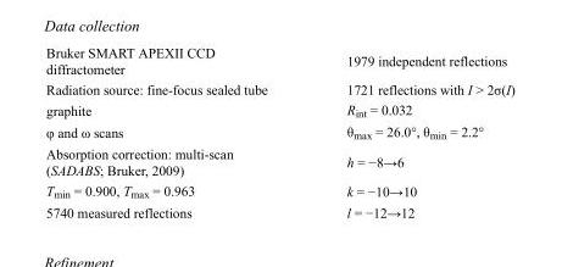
<table><tbody><tr><td>Bruker SMART APEXII CCD diffractometer</td><td>1979 independent reflections</td></tr><tr><td>Radiation source: fine-focus sealed tube</td><td>1721 reflections with I &gt; 2σ(I)</td></tr><tr><td>graphite</td><td>R<sub>int</sub> = 0.032</td></tr><tr><td>φ and ω scans</td><td>θ<sub>max</sub> = 26.0°, θ<sub>min</sub> = 2.2°</td></tr><tr><td>Absorption correction: multi-scan (SADABS; Bruker, 2009)</td><td>h = −8→6</td></tr><tr><td>T<sub>min</sub> = 0.900, T<sub>max</sub> = 0.963</td><td>k = −10→10</td></tr><tr><td>5740 measured reflections</td><td>l = −12→12</td></tr></tbody></table>